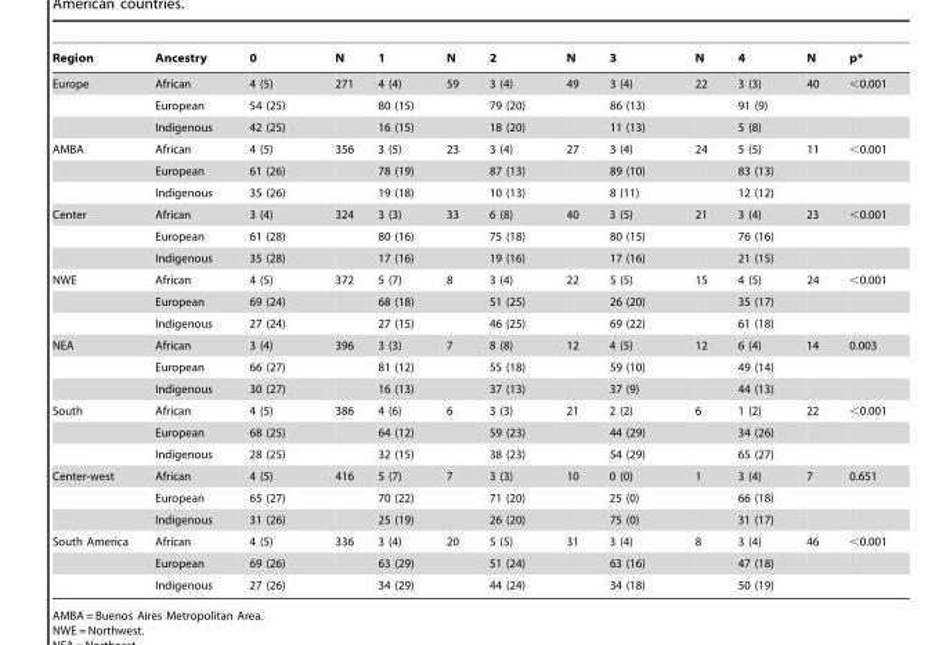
<table><thead><tr><td>Region</td><td>Ancestry</td><td>0</td><td>N</td><td>1</td><td>N</td><td>2</td><td>N</td><td>3</td><td>N</td><td>4</td><td>N</td><td>p*</td></tr></thead><tbody><tr><td rowspan="3">Europe</td><td>African</td><td>4 (5)</td><td>271</td><td>4 (4)</td><td>59</td><td>3 (4)</td><td>49</td><td>3 (4)</td><td>22</td><td>3 (3)</td><td>40</td><td>&lt;0.001</td></tr><tr><td>European</td><td>54 (25)</td><td></td><td>80 (15)</td><td></td><td>79 (20)</td><td></td><td>86 (13)</td><td></td><td>91 (9)</td><td></td><td></td></tr><tr><td>Indigenous</td><td>42 (25)</td><td></td><td>16 (15)</td><td></td><td>18 (20)</td><td></td><td>11 (13)</td><td></td><td>5 (8)</td><td></td><td></td></tr><tr><td rowspan="3">AMBA</td><td>African</td><td>4 (5)</td><td>356</td><td>3 (5)</td><td>23</td><td>3 (4)</td><td>27</td><td>3 (4)</td><td>24</td><td>5 (5)</td><td>11</td><td>&lt;0.001</td></tr><tr><td>European</td><td>61 (26)</td><td></td><td>78 (19)</td><td></td><td>87 (13)</td><td></td><td>89 (10)</td><td></td><td>83 (13)</td><td></td><td></td></tr><tr><td>Indigenous</td><td>35 (26)</td><td></td><td>19 (18)</td><td></td><td>10 (13)</td><td></td><td>8 (11)</td><td></td><td>12 (12)</td><td></td><td></td></tr><tr><td rowspan="3">Center</td><td>African</td><td>3 (4)</td><td>324</td><td>3 (3)</td><td>33</td><td>6 (8)</td><td>40</td><td>3 (5)</td><td>21</td><td>3 (4)</td><td>23</td><td>&lt;0.001</td></tr><tr><td>European</td><td>61 (28)</td><td></td><td>80 (16)</td><td></td><td>75 (18)</td><td></td><td>80 (15)</td><td></td><td>76 (16)</td><td></td><td></td></tr><tr><td>Indigenous</td><td>35 (28)</td><td></td><td>17 (16)</td><td></td><td>19 (16)</td><td></td><td>17 (16)</td><td></td><td>21 (15)</td><td></td><td></td></tr><tr><td rowspan="3">NWE</td><td>African</td><td>4 (5)</td><td>372</td><td>5 (7)</td><td>8</td><td>3 (4)</td><td>22</td><td>5 (5)</td><td>15</td><td>4 (5)</td><td>24</td><td>&lt;0.001</td></tr><tr><td>European</td><td>69 (24)</td><td></td><td>68 (18)</td><td></td><td>51 (25)</td><td></td><td>26 (20)</td><td></td><td>35 (17)</td><td></td><td></td></tr><tr><td>Indigenous</td><td>27 (24)</td><td></td><td>27 (15)</td><td></td><td>46 (25)</td><td></td><td>69 (22)</td><td></td><td>61 (18)</td><td></td><td></td></tr><tr><td rowspan="3">NEA</td><td>African</td><td>3 (4)</td><td>396</td><td>3 (3)</td><td>7</td><td>8 (8)</td><td>12</td><td>4 (5)</td><td>12</td><td>6 (4)</td><td>14</td><td>0.003</td></tr><tr><td>European</td><td>66 (27)</td><td></td><td>81 (12)</td><td></td><td>55 (18)</td><td></td><td>59 (10)</td><td></td><td>49 (14)</td><td></td><td></td></tr><tr><td>Indigenous</td><td>30 (27)</td><td></td><td>16 (13)</td><td></td><td>37 (13)</td><td></td><td>37 (9)</td><td></td><td>44 (13)</td><td></td><td></td></tr><tr><td rowspan="3">South</td><td>African</td><td>4 (5)</td><td>386</td><td>4 (6)</td><td>6</td><td>3 (3)</td><td>21</td><td>2 (2)</td><td>6</td><td>1 (2)</td><td>22</td><td>&lt;0.001</td></tr><tr><td>European</td><td>68 (25)</td><td></td><td>64 (12)</td><td></td><td>59 (23)</td><td></td><td>44 (29)</td><td></td><td>34 (26)</td><td></td><td></td></tr><tr><td>Indigenous</td><td>28 (25)</td><td></td><td>32 (15)</td><td></td><td>38 (23)</td><td></td><td>54 (29)</td><td></td><td>65 (27)</td><td></td><td></td></tr><tr><td rowspan="3">Center-west</td><td>African</td><td>4 (5)</td><td>416</td><td>5 (7)</td><td>7</td><td>3 (3)</td><td>10</td><td>0 (0)</td><td>1</td><td>3 (4)</td><td>7</td><td>0.651</td></tr><tr><td>European</td><td>65 (27)</td><td></td><td>70 (22)</td><td></td><td>71 (20)</td><td></td><td>25 (0)</td><td></td><td>66 (18)</td><td></td><td></td></tr><tr><td>Indigenous</td><td>31 (26)</td><td></td><td>25 (19)</td><td></td><td>26 (20)</td><td></td><td>75 (0)</td><td></td><td>31 (17)</td><td></td><td></td></tr><tr><td rowspan="3">South America</td><td>African</td><td>4 (5)</td><td>336</td><td>3 (4)</td><td>20</td><td>5 (5)</td><td>31</td><td>3 (4)</td><td>8</td><td>3 (4)</td><td>46</td><td>&lt;0.001</td></tr><tr><td>European</td><td>69 (26)</td><td></td><td>63 (29)</td><td></td><td>51 (24)</td><td></td><td>63 (16)</td><td></td><td>47 (18)</td><td></td><td></td></tr><tr><td>Indigenous</td><td>27 (26)</td><td></td><td>34 (29)</td><td></td><td>44 (24)</td><td></td><td>34 (18)</td><td></td><td>50 (19)</td><td></td><td></td></tr></tbody></table>